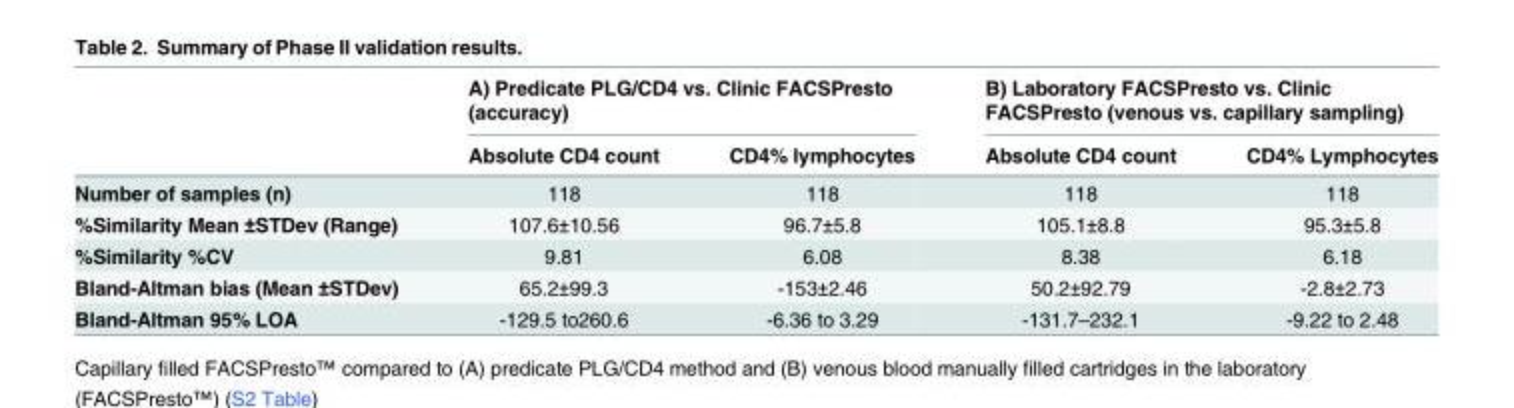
<table><thead><tr><td rowspan="2"></td><td colspan="2">A) Predicate PLG/CD4 vs. Clinic FACSPresto (accuracy)</td><td colspan="2">B) Laboratory FACSPresto vs. Clinic FACSPresto (venous vs. capillary sampling)</td></tr><tr><td>Absolute CD4 count</td><td>CD4% lymphocytes</td><td>Absolute CD4 count</td><td>CD4% Lymphocytes</td></tr></thead><tbody><tr><td>Number of samples (n)</td><td>118</td><td>118</td><td>118</td><td>118</td></tr><tr><td>%Similarity Mean ±STDev (Range)</td><td>107.6±10.56</td><td>96.7±5.8</td><td>105.1±8.8</td><td>95.3±5.8</td></tr><tr><td>%Similarity %CV</td><td>9.81</td><td>6.08</td><td>8.38</td><td>6.18</td></tr><tr><td>Bland-Altman bias (Mean ±STDev)</td><td>65.2±99.3</td><td>-153±2.46</td><td>50.2±92.79</td><td>-2.8±2.73</td></tr><tr><td>Bland-Altman 95% LOA</td><td>-129.5 to260.6</td><td>-6.36 to 3.29</td><td>-131.7–232.1</td><td>-9.22 to 2.48</td></tr></tbody></table>